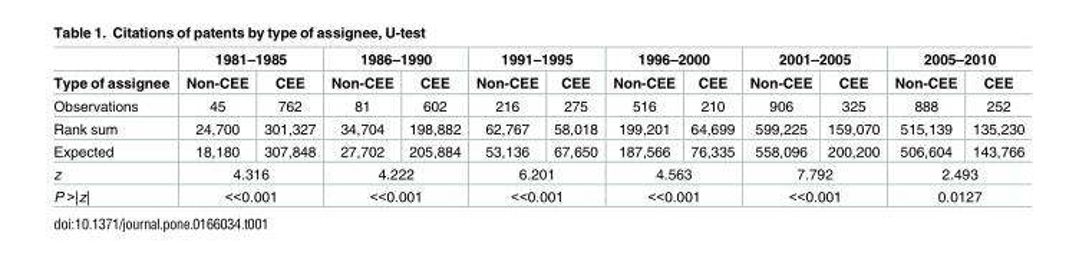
<table><thead><tr><td rowspan="2">Type of assignee</td><td colspan="2">1981–1985</td><td colspan="2">1986–1990</td><td colspan="2">1991–1995</td><td colspan="2">1996–2000</td><td colspan="2">2001–2005</td><td colspan="2">2005–2010</td></tr><tr><td>Non-CEE</td><td>CEE</td><td>Non-CEE</td><td>CEE</td><td>Non-CEE</td><td>CEE</td><td>Non-CEE</td><td>CEE</td><td>Non-CEE</td><td>CEE</td><td>Non-CEE</td><td>CEE</td></tr></thead><tbody><tr><td>Observations</td><td>45</td><td>762</td><td>81</td><td>602</td><td>216</td><td>275</td><td>516</td><td>210</td><td>906</td><td>325</td><td>888</td><td>252</td></tr><tr><td>Rank sum</td><td>24,700</td><td>301,327</td><td>34,704</td><td>198,882</td><td>62,767</td><td>58,018</td><td>199,201</td><td>64,699</td><td>599,225</td><td>159,070</td><td>515,139</td><td>135,230</td></tr><tr><td>Expected</td><td>18,180</td><td>307,848</td><td>27,702</td><td>205,884</td><td>53,136</td><td>67,650</td><td>187,566</td><td>76,335</td><td>558,096</td><td>200,200</td><td>506,604</td><td>143,766</td></tr><tr><td>z</td><td colspan="2">4.316</td><td colspan="2">4.222</td><td colspan="2">6.201</td><td colspan="2">4.563</td><td colspan="2">7.792</td><td colspan="2">2.493</td></tr><tr><td>P &gt;|z|</td><td colspan="2">&lt;&lt;0.001</td><td colspan="2">&lt;&lt;0.001</td><td colspan="2">&lt;&lt;0.001</td><td colspan="2">&lt;&lt;0.001</td><td colspan="2">&lt;&lt;0.001</td><td colspan="2">0.0127</td></tr></tbody></table>